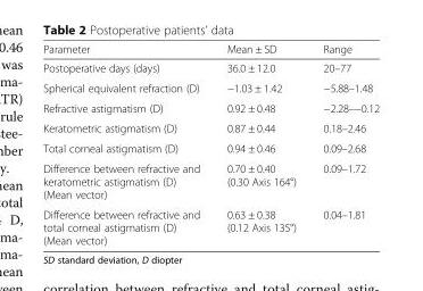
<table><thead><tr><td>Parameter</td><td>Mean ± SD</td><td>Range</td></tr></thead><tbody><tr><td>Postoperative days (days)</td><td>36.0 ± 12.0</td><td>20–77</td></tr><tr><td>Spherical equivalent refraction (D)</td><td>−1.03 ± 1.42</td><td>−5.88–1.48</td></tr><tr><td>Refractive astigmatism (D)</td><td>0.92 ± 0.48</td><td>−2.28–−0.12</td></tr><tr><td>Keratometric astigmatism (D)</td><td>0.87 ± 0.44</td><td>0.18–2.46</td></tr><tr><td>Total corneal astigmatism (D)</td><td>0.94 ± 0.46</td><td>0.09–2.68</td></tr><tr><td>Difference between refractive and keratometric astigmatism (D) (Mean vector)</td><td>0.70 ± 0.40 (0.30 Axis 164°)</td><td>0.09–1.72</td></tr><tr><td>Difference between refractive and total corneal astigmatism (D) (Mean vector)</td><td>0.63 ± 0.38 (0.12 Axis 135°)</td><td>0.04–1.81</td></tr></tbody></table>